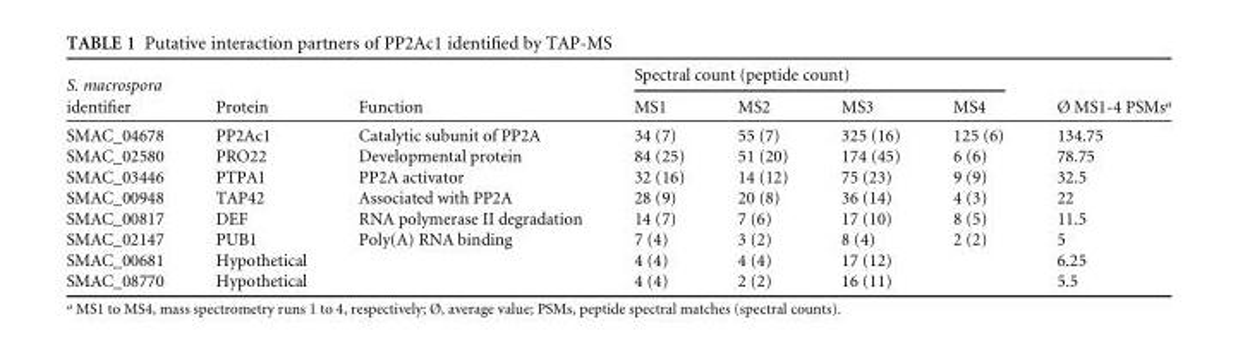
<table><thead><tr><td rowspan="2">S. macrospora identifier</td><td rowspan="2">Protein</td><td rowspan="2">Function</td><td colspan="4">Spectral count (peptide count)</td><td rowspan="2">Ø MS1-4 PSMs<sup>a</sup></td></tr><tr><td>MS1</td><td>MS2</td><td>MS3</td><td>MS4</td></tr></thead><tbody><tr><td>SMAC_04678</td><td>PP2Ac1</td><td>Catalytic subunit of PP2A</td><td>34 (7)</td><td>55 (7)</td><td>325 (16)</td><td>125 (6)</td><td>134.75</td></tr><tr><td>SMAC_02580</td><td>PRO22</td><td>Developmental protein</td><td>84 (25)</td><td>51 (20)</td><td>174 (45)</td><td>6 (6)</td><td>78.75</td></tr><tr><td>SMAC_03446</td><td>PTPA1</td><td>PP2A activator</td><td>32 (16)</td><td>14 (12)</td><td>75 (23)</td><td>9 (9)</td><td>32.5</td></tr><tr><td>SMAC_00948</td><td>TAP42</td><td>Associated with PP2A</td><td>28 (9)</td><td>20 (8)</td><td>36 (14)</td><td>4 (3)</td><td>22</td></tr><tr><td>SMAC_00817</td><td>DEF</td><td>RNA polymerase II degradation</td><td>14 (7)</td><td>7 (6)</td><td>17 (10)</td><td>8 (5)</td><td>11.5</td></tr><tr><td>SMAC_02147</td><td>PUB1</td><td>Poly(A) RNA binding</td><td>7 (4)</td><td>3 (2)</td><td>8 (4)</td><td>2 (2)</td><td>5</td></tr><tr><td>SMAC_00681</td><td>Hypothetical</td><td></td><td>4 (4)</td><td>4 (4)</td><td>17 (12)</td><td></td><td>6.25</td></tr><tr><td>SMAC_08770</td><td>Hypothetical</td><td></td><td>4 (4)</td><td>2 (2)</td><td>16 (11)</td><td></td><td>5.5</td></tr></tbody></table>